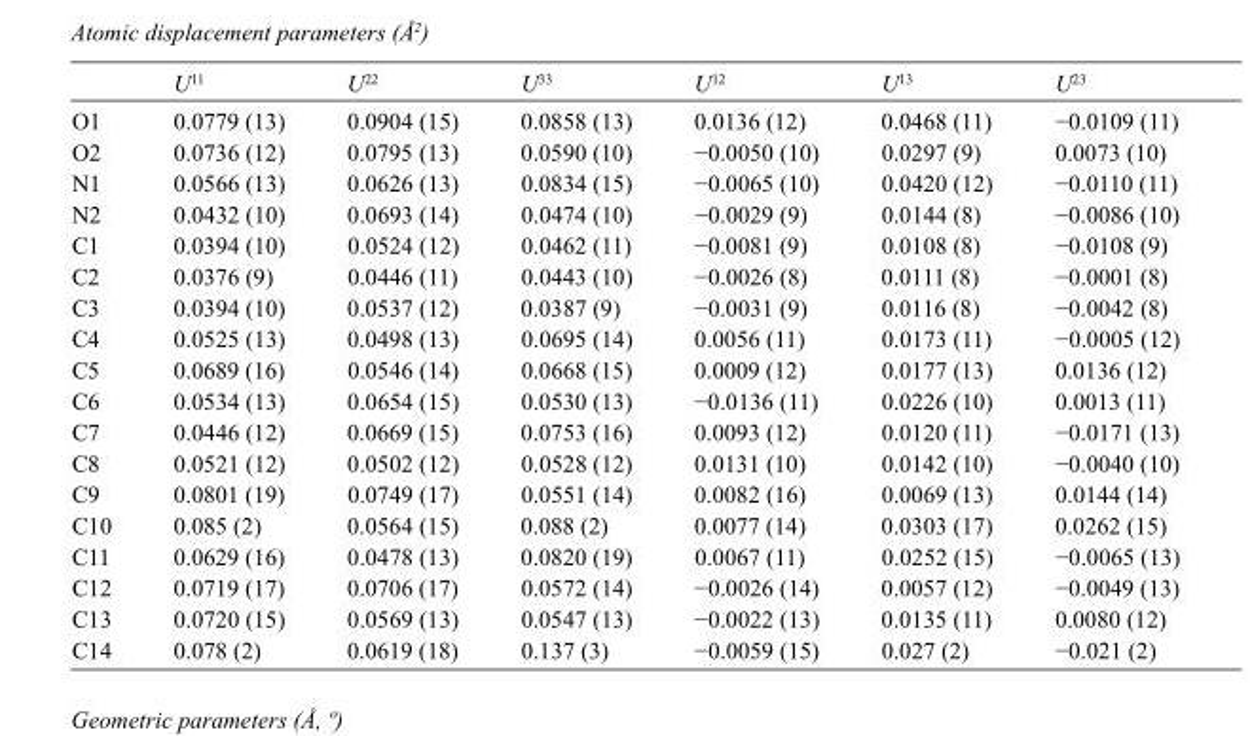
<table><thead><tr><td></td><td>U<sup>11</sup></td><td>U<sup>22</sup></td><td>U<sup>33</sup></td><td>U<sup>12</sup></td><td>U<sup>13</sup></td><td>U<sup>23</sup></td></tr></thead><tbody><tr><td>O1</td><td>0.0779 (13)</td><td>0.0904 (15)</td><td>0.0858 (13)</td><td>0.0136 (12)</td><td>0.0468 (11)</td><td>−0.0109 (11)</td></tr><tr><td>O2</td><td>0.0736 (12)</td><td>0.0795 (13)</td><td>0.0590 (10)</td><td>−0.0050 (10)</td><td>0.0297 (9)</td><td>0.0073 (10)</td></tr><tr><td>N1</td><td>0.0566 (13)</td><td>0.0626 (13)</td><td>0.0834 (15)</td><td>−0.0065 (10)</td><td>0.0420 (12)</td><td>−0.0110 (11)</td></tr><tr><td>N2</td><td>0.0432 (10)</td><td>0.0693 (14)</td><td>0.0474 (10)</td><td>−0.0029 (9)</td><td>0.0144 (8)</td><td>−0.0086 (10)</td></tr><tr><td>C1</td><td>0.0394 (10)</td><td>0.0524 (12)</td><td>0.0462 (11)</td><td>−0.0081 (9)</td><td>0.0108 (8)</td><td>−0.0108 (9)</td></tr><tr><td>C2</td><td>0.0376 (9)</td><td>0.0446 (11)</td><td>0.0443 (10)</td><td>−0.0026 (8)</td><td>0.0111 (8)</td><td>−0.0001 (8)</td></tr><tr><td>C3</td><td>0.0394 (10)</td><td>0.0537 (12)</td><td>0.0387 (9)</td><td>−0.0031 (9)</td><td>0.0116 (8)</td><td>−0.0042 (8)</td></tr><tr><td>C4</td><td>0.0525 (13)</td><td>0.0498 (13)</td><td>0.0695 (14)</td><td>0.0056 (11)</td><td>0.0173 (11)</td><td>−0.0005 (12)</td></tr><tr><td>C5</td><td>0.0689 (16)</td><td>0.0546 (14)</td><td>0.0668 (15)</td><td>0.0009 (12)</td><td>0.0177 (13)</td><td>0.0136 (12)</td></tr><tr><td>C6</td><td>0.0534 (13)</td><td>0.0654 (15)</td><td>0.0530 (13)</td><td>−0.0136 (11)</td><td>0.0226 (10)</td><td>0.0013 (11)</td></tr><tr><td>C7</td><td>0.0446 (12)</td><td>0.0669 (15)</td><td>0.0753 (16)</td><td>0.0093 (12)</td><td>0.0120 (11)</td><td>−0.0171 (13)</td></tr><tr><td>C8</td><td>0.0521 (12)</td><td>0.0502 (12)</td><td>0.0528 (12)</td><td>0.0131 (10)</td><td>0.0142 (10)</td><td>−0.0040 (10)</td></tr><tr><td>C9</td><td>0.0801 (19)</td><td>0.0749 (17)</td><td>0.0551 (14)</td><td>0.0082 (16)</td><td>0.0069 (13)</td><td>0.0144 (14)</td></tr><tr><td>C10</td><td>0.085 (2)</td><td>0.0564 (15)</td><td>0.088 (2)</td><td>0.0077 (14)</td><td>0.0303 (17)</td><td>0.0262 (15)</td></tr><tr><td>C11</td><td>0.0629 (16)</td><td>0.0478 (13)</td><td>0.0820 (19)</td><td>0.0067 (11)</td><td>0.0252 (15)</td><td>−0.0065 (13)</td></tr><tr><td>C12</td><td>0.0719 (17)</td><td>0.0706 (17)</td><td>0.0572 (14)</td><td>−0.0026 (14)</td><td>0.0057 (12)</td><td>−0.0049 (13)</td></tr><tr><td>C13</td><td>0.0720 (15)</td><td>0.0569 (13)</td><td>0.0547 (13)</td><td>−0.0022 (13)</td><td>0.0135 (11)</td><td>0.0080 (12)</td></tr><tr><td>C14</td><td>0.078 (2)</td><td>0.0619 (18)</td><td>0.137 (3)</td><td>−0.0059 (15)</td><td>0.027 (2)</td><td>−0.021 (2)</td></tr></tbody></table>